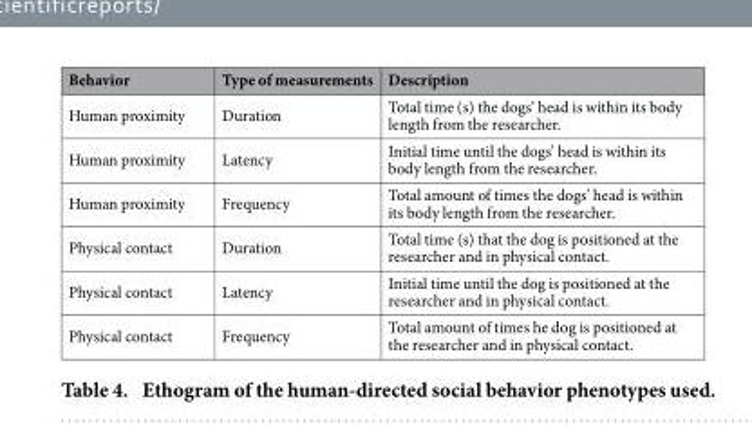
<table><thead><tr><td>Behavior</td><td>Type of measurements</td><td>Description</td></tr></thead><tbody><tr><td>Human proximity</td><td>Duration</td><td>Total time (s) the dogs’ head is within its body length from the researcher.</td></tr><tr><td>Human proximity</td><td>Latency</td><td>Initial time until the dogs’ head is within its body length from the researcher.</td></tr><tr><td>Human proximity</td><td>Frequency</td><td>Total amount of times the dogs’ head is within its body length from the researcher.</td></tr><tr><td>Physical contact</td><td>Duration</td><td>Total time (s) that the dog is positioned at the researcher and in physical contact.</td></tr><tr><td>Physical contact</td><td>Latency</td><td>Initial time until the dog is positioned at the researcher and in physical contact.</td></tr><tr><td>Physical contact</td><td>Frequency</td><td>Total amount of times he dog is positioned at the researcher and in physical contact.</td></tr></tbody></table>